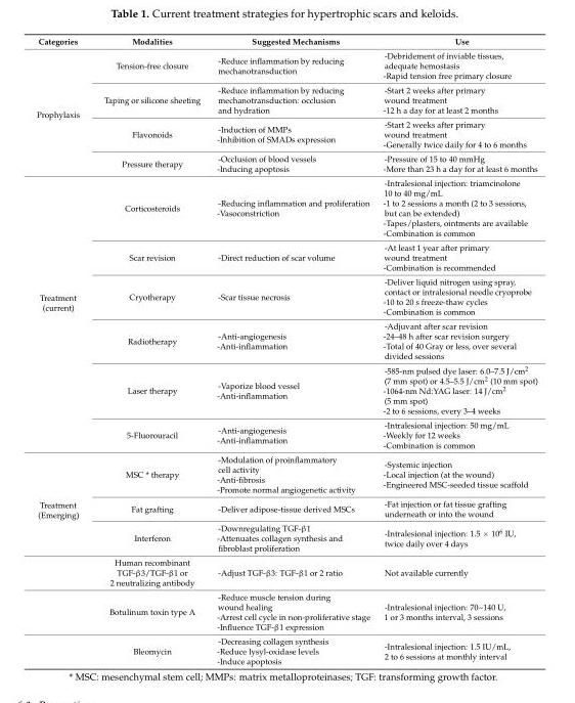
<table><thead><tr><td>Categories</td><td>Modalities</td><td>Suggested Mechanisms</td><td>Use</td></tr></thead><tbody><tr><td rowspan="4">Prophylaxis</td><td>Tension-free closure</td><td>-Reduce inflammation by reducing mechanotransduction</td><td>-Debridement of inviable tissues, adequate hemostasis -Rapid tension free primary closure</td></tr><tr><td>Taping or silicone sheeting</td><td>-Reduce inflammation by reducing mechanotransduction: occlusion and hydration</td><td>-Start 2 weeks after primary wound treatment -12 h a day for at least 2 months</td></tr><tr><td>Flavonoids</td><td>-Induction of MMPs -Inhibition of SMADs expression</td><td>-Start 2 weeks after primary wound treatment -Generally twice daily for 4 to 6 months</td></tr><tr><td>Pressure therapy</td><td>-Occlusion of blood vessels -Inducing apoptosis</td><td>-Pressure of 15 to 40 mmHg -More than 23 h a day for at least 6 months</td></tr><tr><td rowspan="6">Treatment (current)</td><td>Corticosteroids</td><td>-Reducing inflammation and proliferation -Vasoconstriction</td><td>-Intralesional injection: triamcinolone 10 to 40 mg/mL -1 to 2 sessions a month (2 to 3 sessions, but can be extended) -Tapes/plasters, ointments are available -Combination is common</td></tr><tr><td>Scar revision</td><td>-Direct reduction of scar volume</td><td>-At least 1 year after primary wound treatment -Combination is recommended</td></tr><tr><td>Cryotherapy</td><td>-Scar tissue necrosis</td><td>-Deliver liquid nitrogen using spray, contact or intralesional needle cryoprobe -10 to 20 s freeze-thaw cycles -Combination is common</td></tr><tr><td>Radiotherapy</td><td>-Anti-angiogenesis -Anti-inflammation</td><td>-Adjuvant after scar revision -24–48 h after scar revision surgery -Total of 40 Gray or less, over several divided sessions</td></tr><tr><td>Laser therapy</td><td>-Vaporize blood vessel -Anti-inflammation</td><td>-585-nm pulsed dye laser: 6.0–7.5 J/cm<sup>2</sup> (7 mm spot) or 4.5–5.5 J/cm<sup>2</sup> (10 mm spot) -1064-nm Nd:YAG laser: 14 J/cm<sup>2</sup> (5 mm spot) -2 to 6 sessions, every 3–4 weeks</td></tr><tr><td>5-Fluorouracil</td><td>-Anti-angiogenesis -Anti-inflammation</td><td>-Intralesional injection: 50 mg/mL -Weekly for 12 weeks -Combination is common</td></tr><tr><td rowspan="6">Treatment (Emerging)</td><td>MSC * therapy</td><td>-Modulation of proinflammatory cell activity -Anti-fibrosis -Promote normal angiogenetic activity</td><td>-Systemic injection -Local injection (at the wound) -Engineered MSC-seeded tissue scaffold</td></tr><tr><td>Fat grafting</td><td>-Deliver adipose-tissue derived MSCs</td><td>-Fat injection or fat tissue grafting underneath or into the wound</td></tr><tr><td>Interferon</td><td>-Downregulating TGF-β1 -Attenuates collagen synthesis and fibroblast proliferation</td><td>-Intralesional injection: 1.5 × 10<sup>6</sup> IU, twice daily over 4 days</td></tr><tr><td>Human recombinant TGF-β3/TGF-β1 or 2 neutralizing antibody</td><td>-Adjust TGF-β3: TGF-β1 or 2 ratio</td><td>Not available currently</td></tr><tr><td>Botulinum toxin type A</td><td>-Reduce muscle tension during wound healing -Arrest cell cycle in non-proliferative stage -Influence TGF-β1 expression</td><td>-Intralesional injection: 70~140 U, 1 or 3 months interval, 3 sessions</td></tr><tr><td>Bleomycin</td><td>-Decreasing collagen synthesis -Reduce lysyl-oxidase levels -Induce apoptosis</td><td>-Intralesional injection: 1.5 IU/mL, 2 to 6 sessions at monthly interval</td></tr></tbody></table>